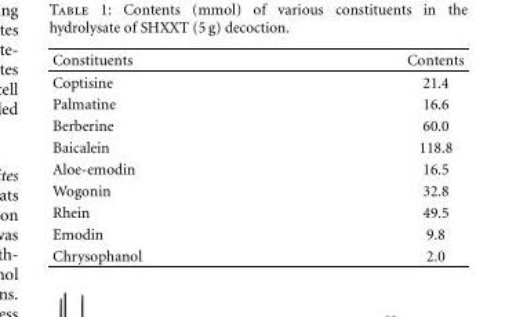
<table><thead><tr><td>Constituents</td><td>Contents</td></tr></thead><tbody><tr><td>Coptisine</td><td>21.4</td></tr><tr><td>Palmatine</td><td>16.6</td></tr><tr><td>Berberine</td><td>60.0</td></tr><tr><td>Baicalein</td><td>118.8</td></tr><tr><td>Aloe-emodin</td><td>16.5</td></tr><tr><td>Wogonin</td><td>32.8</td></tr><tr><td>Rhein</td><td>49.5</td></tr><tr><td>Emodin</td><td>9.8</td></tr><tr><td>Chrysophanol</td><td>2.0</td></tr></tbody></table>